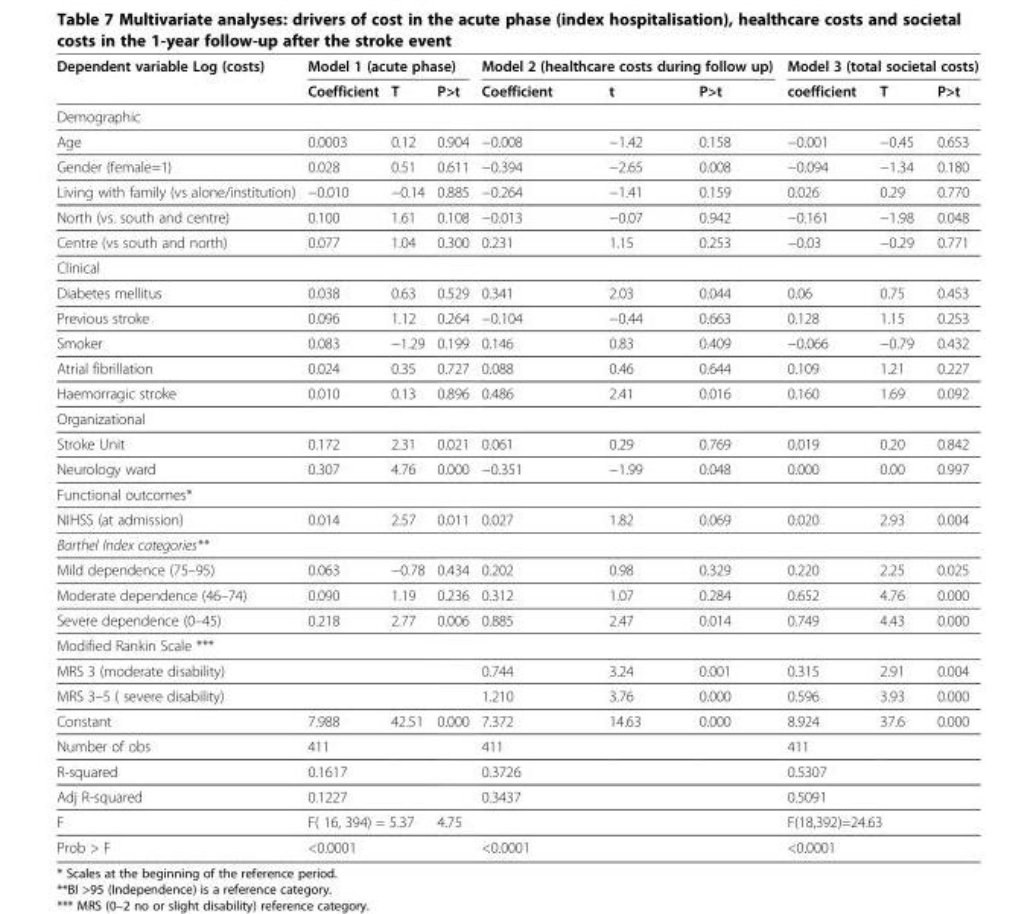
<table><thead><tr><td rowspan="2">Dependent variable Log (costs)</td><td colspan="3">Model 1 (acute phase)</td><td colspan="3">Model 2 (healthcare costs during follow up)</td><td colspan="3">Model 3 (total societal costs)</td></tr><tr><td>Coefficient</td><td>T</td><td>P&gt;t</td><td>Coefficient</td><td>t</td><td>P&gt;t</td><td>coefficient</td><td>T</td><td>P&gt;t</td></tr></thead><tbody><tr><td colspan="10">Demographic</td></tr><tr><td>Age</td><td>0.0003</td><td>0.12</td><td>0.904</td><td>−0.008</td><td>−1.42</td><td>0.158</td><td>−0.001</td><td>−0.45</td><td>0.653</td></tr><tr><td>Gender (female=1)</td><td>0.028</td><td>0.51</td><td>0.611</td><td>−0.394</td><td>−2.65</td><td>0.008</td><td>−0.094</td><td>−1.34</td><td>0.180</td></tr><tr><td>Living with family (vs alone/institution)</td><td>−0.010</td><td>−0.14</td><td>0.885</td><td>−0.264</td><td>−1.41</td><td>0.159</td><td>0.026</td><td>0.29</td><td>0.770</td></tr><tr><td>North (vs. south and centre)</td><td>0.100</td><td>1.61</td><td>0.108</td><td>−0.013</td><td>−0.07</td><td>0.942</td><td>−0.161</td><td>−1.98</td><td>0.048</td></tr><tr><td>Centre (vs south and north)</td><td>0.077</td><td>1.04</td><td>0.300</td><td>0.231</td><td>1.15</td><td>0.253</td><td>−0.03</td><td>−0.29</td><td>0.771</td></tr><tr><td colspan="10">Clinical</td></tr><tr><td>Diabetes mellitus</td><td>0.038</td><td>0.63</td><td>0.529</td><td>0.341</td><td>2.03</td><td>0.044</td><td>0.06</td><td>0.75</td><td>0.453</td></tr><tr><td>Previous stroke</td><td>0.096</td><td>1.12</td><td>0.264</td><td>−0.104</td><td>−0.44</td><td>0.663</td><td>0.128</td><td>1.15</td><td>0.253</td></tr><tr><td>Smoker</td><td>0.083</td><td>−1.29</td><td>0.199</td><td>0.146</td><td>0.83</td><td>0.409</td><td>−0.066</td><td>−0.79</td><td>0.432</td></tr><tr><td>Atrial fibrillation</td><td>0.024</td><td>0.35</td><td>0.727</td><td>0.088</td><td>0.46</td><td>0.644</td><td>0.109</td><td>1.21</td><td>0.227</td></tr><tr><td>Haemorragic stroke</td><td>0.010</td><td>0.13</td><td>0.896</td><td>0.486</td><td>2.41</td><td>0.016</td><td>0.160</td><td>1.69</td><td>0.092</td></tr><tr><td colspan="10">Organizational</td></tr><tr><td>Stroke Unit</td><td>0.172</td><td>2.31</td><td>0.021</td><td>0.061</td><td>0.29</td><td>0.769</td><td>0.019</td><td>0.20</td><td>0.842</td></tr><tr><td>Neurology ward</td><td>0.307</td><td>4.76</td><td>0.000</td><td>−0.351</td><td>−1.99</td><td>0.048</td><td>0.000</td><td>0.00</td><td>0.997</td></tr><tr><td colspan="10">Functional outcomes*</td></tr><tr><td>NIHSS (at admission)</td><td>0.014</td><td>2.57</td><td>0.011</td><td>0.027</td><td>1.82</td><td>0.069</td><td>0.020</td><td>2.93</td><td>0.004</td></tr><tr><td colspan="10">Barthel Index categories**</td></tr><tr><td>Mild dependence (75–95)</td><td>0.063</td><td>−0.78</td><td>0.434</td><td>0.202</td><td>0.98</td><td>0.329</td><td>0.220</td><td>2.25</td><td>0.025</td></tr><tr><td>Moderate dependence (46–74)</td><td>0.090</td><td>1.19</td><td>0.236</td><td>0.312</td><td>1.07</td><td>0.284</td><td>0.652</td><td>4.76</td><td>0.000</td></tr><tr><td>Severe dependence (0–45)</td><td>0.218</td><td>2.77</td><td>0.006</td><td>0.885</td><td>2.47</td><td>0.014</td><td>0.749</td><td>4.43</td><td>0.000</td></tr><tr><td colspan="10">Modified Rankin Scale ***</td></tr><tr><td>MRS 3 (moderate disability)</td><td></td><td></td><td></td><td>0.744</td><td>3.24</td><td>0.001</td><td>0.315</td><td>2.91</td><td>0.004</td></tr><tr><td>MRS 3–5 ( severe disability)</td><td></td><td></td><td></td><td>1.210</td><td>3.76</td><td>0.000</td><td>0.596</td><td>3.93</td><td>0.000</td></tr><tr><td>Constant</td><td>7.988</td><td>42.51</td><td>0.000</td><td>7.372</td><td>14.63</td><td>0.000</td><td>8.924</td><td>37.6</td><td>0.000</td></tr><tr><td>Number of obs</td><td>411</td><td></td><td></td><td>411</td><td></td><td></td><td>411</td><td></td><td></td></tr><tr><td>R-squared</td><td>0.1617</td><td></td><td></td><td>0.3726</td><td></td><td></td><td>0.5307</td><td></td><td></td></tr><tr><td>Adj R-squared</td><td>0.1227</td><td></td><td></td><td>0.3437</td><td></td><td></td><td>0.5091</td><td></td><td></td></tr><tr><td>F</td><td colspan="2">F( 16, 394) = 5.37</td><td>4.75</td><td colspan="2"></td><td></td><td colspan="2">F(18,392)=24.63</td><td></td></tr><tr><td>Prob &gt; F</td><td>&lt;0.0001</td><td></td><td></td><td>&lt;0.0001</td><td></td><td></td><td>&lt;0.0001</td><td></td><td></td></tr></tbody></table>